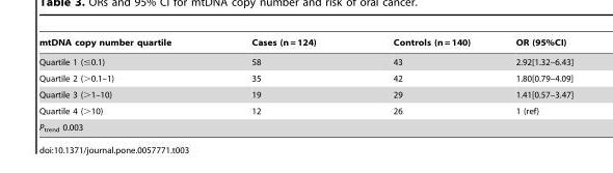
<table><thead><tr><td>mtDNA copy number quartile</td><td>Cases (n = 124)</td><td>Controls (n = 140)</td><td>OR (95%CI)</td></tr></thead><tbody><tr><td>Quartile 1 (≤0.1)</td><td>58</td><td>43</td><td>2.92[1.32–6.43]</td></tr><tr><td>Quartile 2 (&gt;0.1–1)</td><td>35</td><td>42</td><td>1.80[0.79–4.09]</td></tr><tr><td>Quartile 3 (&gt;1–10)</td><td>19</td><td>29</td><td>1.41[0.57–3.47]</td></tr><tr><td>Quartile 4 (&gt;10)</td><td>12</td><td>26</td><td>1 (ref)</td></tr><tr><td colspan="4">P<sub>trend</sub> 0.003</td></tr></tbody></table>